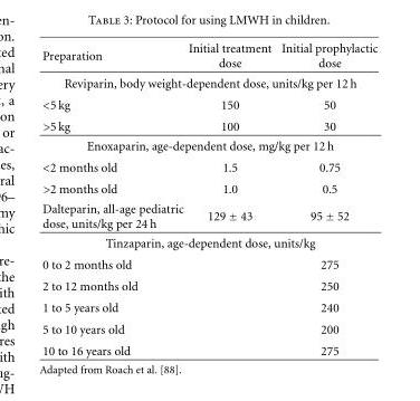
<table><thead><tr><td>Preparation</td><td>Initial treatment dose</td><td>Initial prophylactic dose</td></tr></thead><tbody><tr><td colspan="3">Reviparin, body weight-dependent dose, units/kg per 12 h</td></tr><tr><td>&lt;5 kg</td><td>150</td><td>50</td></tr><tr><td>&gt;5 kg</td><td>100</td><td>30</td></tr><tr><td colspan="3">Enoxaparin, age-dependent dose, mg/kg per 12 h</td></tr><tr><td>&lt;2 months old</td><td>1.5</td><td>0.75</td></tr><tr><td>&gt;2 months old</td><td>1.0</td><td>0.5</td></tr><tr><td>Dalteparin, all-age pediatric dose, units/kg per 24 h</td><td>129 ± 43</td><td>95 ± 52</td></tr><tr><td colspan="3">Tinzaparin, age-dependent dose, units/kg</td></tr><tr><td>0 to 2 months old</td><td></td><td>275</td></tr><tr><td>2 to 12 months old</td><td></td><td>250</td></tr><tr><td>1 to 5 years old</td><td></td><td>240</td></tr><tr><td>5 to 10 years old</td><td></td><td>200</td></tr><tr><td>10 to 16 years old</td><td></td><td>275</td></tr></tbody></table>